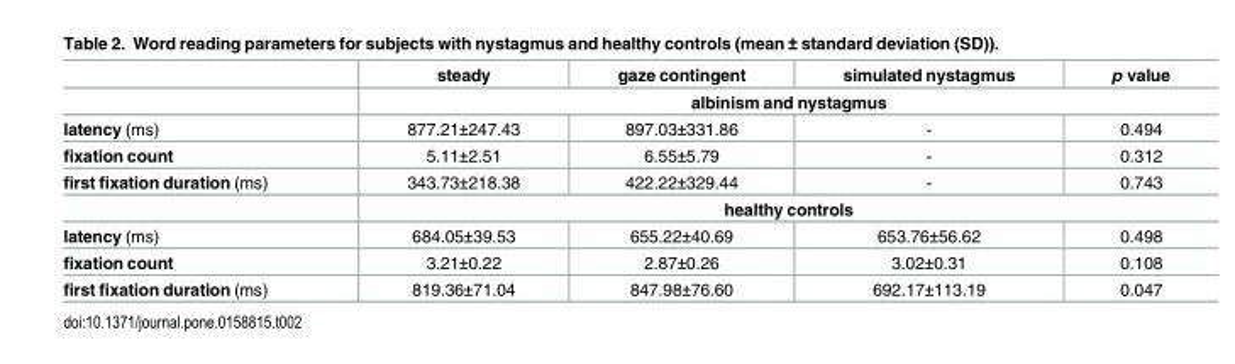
<table><thead><tr><td></td><td>steady</td><td>gaze contingent</td><td>simulated nystagmus</td><td>p value</td></tr></thead><tbody><tr><td></td><td colspan="4">albinism and nystagmus</td></tr><tr><td>latency (ms)</td><td>877.21±247.43</td><td>897.03±331.86</td><td>-</td><td>0.494</td></tr><tr><td>fixation count</td><td>5.11±2.51</td><td>6.55±5.79</td><td>-</td><td>0.312</td></tr><tr><td rowspan="2">first fixation duration (ms)</td><td>343.73±218.38</td><td>422.22±329.44</td><td>-</td><td>0.743</td></tr><tr><td colspan="4">healthy controls</td></tr><tr><td>latency (ms)</td><td>684.05±39.53</td><td>655.22±40.69</td><td>653.76±56.62</td><td>0.498</td></tr><tr><td>fixation count</td><td>3.21±0.22</td><td>2.87±0.26</td><td>3.02±0.31</td><td>0.108</td></tr><tr><td>first fixation duration (ms)</td><td>819.36±71.04</td><td>847.98±76.60</td><td>692.17±113.19</td><td>0.047</td></tr></tbody></table>